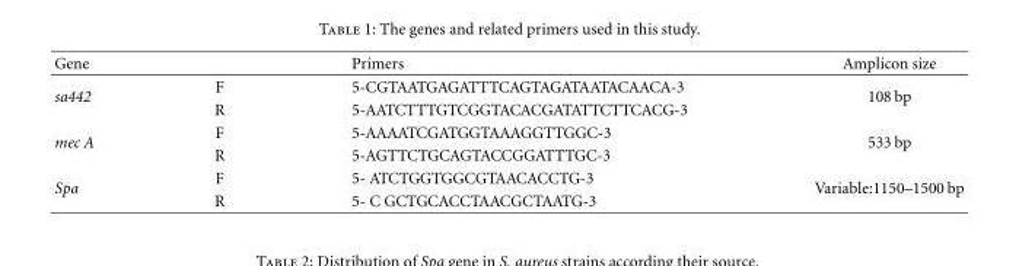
<table><thead><tr><td>Gene</td><td></td><td>Primers</td><td>Amplicon size</td></tr></thead><tbody><tr><td rowspan="2">sa442</td><td>F</td><td>5-CGTAATGAGATTTCAGTAGATAATACAACA-3</td><td rowspan="2">108 bp</td></tr><tr><td>R</td><td>5-AATCTTTGTCGGTACACGATATTCTTCACG-3</td></tr><tr><td rowspan="2">mec A</td><td>F</td><td>5-AAAATCGATGGTAAAGGTTGGC-3</td><td rowspan="2">533 bp</td></tr><tr><td>R</td><td>5-AGTTCTGCAGTACCGGATTTGC-3</td></tr><tr><td rowspan="2">Spa</td><td>F</td><td>5- ATCTGGTGGCGTAACACCTG-3</td><td rowspan="2">Variable:1150–1500 bp</td></tr><tr><td>R</td><td>5- C GCTGCACCTAACGCTAATG-3</td></tr></tbody></table>